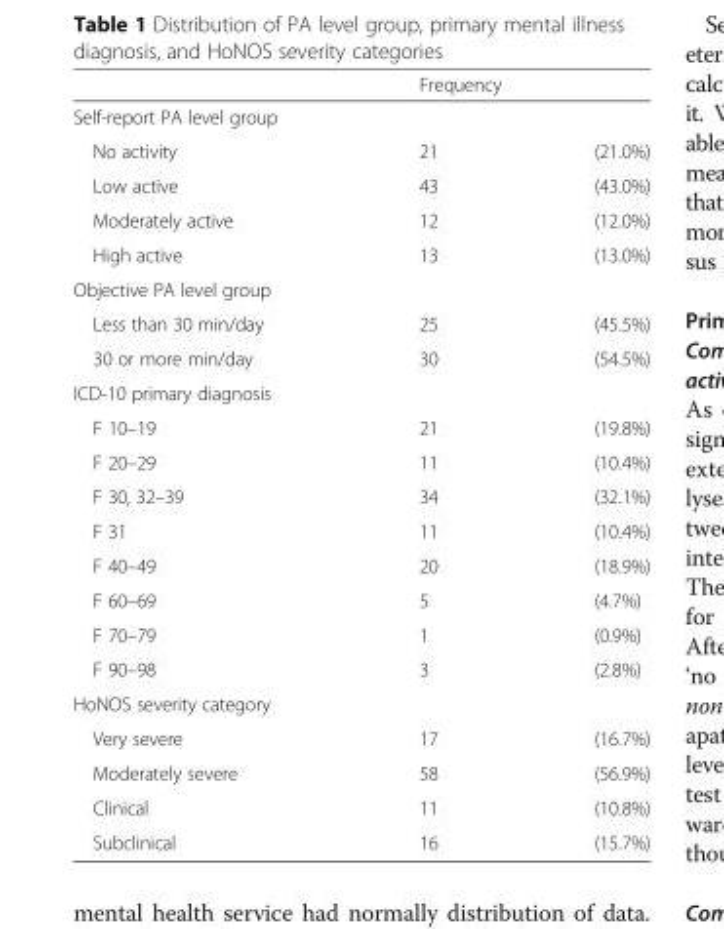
<table><thead><tr><td></td><td colspan="2">Frequency</td></tr><tr><td colspan="3">Self-report PA level group</td></tr><tr><td>No activity</td><td>21</td><td>(21.0%)</td></tr></thead><tbody><tr><td>Low active</td><td>43</td><td>(43.0%)</td></tr><tr><td>Moderately active</td><td>12</td><td>(12.0%)</td></tr><tr><td>High active</td><td>13</td><td>(13.0%)</td></tr><tr><td colspan="3">Objective PA level group</td></tr><tr><td>Less than 30 min/day</td><td>25</td><td>(45.5%)</td></tr><tr><td>30 or more min/day</td><td>30</td><td>(54.5%)</td></tr><tr><td colspan="3">ICD-10 primary diagnosis</td></tr><tr><td>F 10–19</td><td>21</td><td>(19.8%)</td></tr><tr><td>F 20–29</td><td>11</td><td>(10.4%)</td></tr><tr><td>F 30, 32–39</td><td>34</td><td>(32.1%)</td></tr><tr><td>F 31</td><td>11</td><td>(10.4%)</td></tr><tr><td>F 40–49</td><td>20</td><td>(18.9%)</td></tr><tr><td>F 60–69</td><td>5</td><td>(4.7%)</td></tr><tr><td>F 70–79</td><td>1</td><td>(0.9%)</td></tr><tr><td>F 90–98</td><td>3</td><td>(2.8%)</td></tr><tr><td colspan="3">HoNOS severity category</td></tr><tr><td>Very severe</td><td>17</td><td>(16.7%)</td></tr><tr><td>Moderately severe</td><td>58</td><td>(56.9%)</td></tr><tr><td>Clinical</td><td>11</td><td>(10.8%)</td></tr><tr><td>Subclinical</td><td>16</td><td>(15.7%)</td></tr></tbody></table>